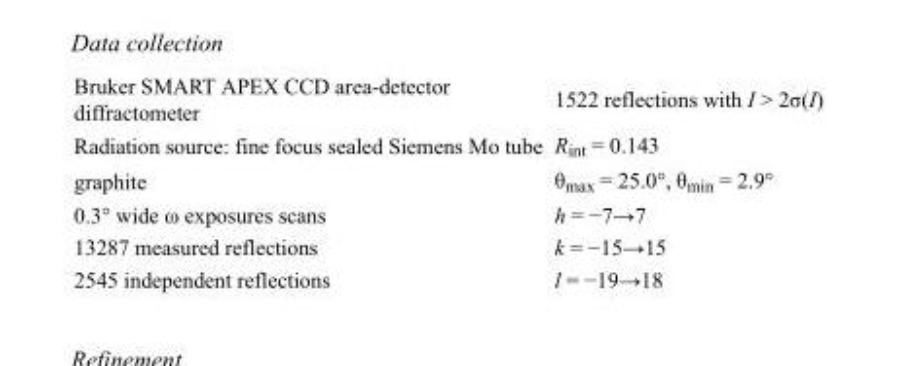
<table><tbody><tr><td>Bruker SMART APEX CCD area-detector diffractometer</td><td>1522 reflections with I &gt; 2σ(I)</td></tr><tr><td>Radiation source: fine focus sealed Siemens Mo tube</td><td>R<sub>int</sub> = 0.143</td></tr><tr><td>graphite</td><td>θ<sub>max</sub> = 25.0°, θ<sub>min</sub> = 2.9°</td></tr><tr><td>0.3° wide ω exposures scans</td><td>h = −7→7</td></tr><tr><td>13287 measured reflections</td><td>k = −15→15</td></tr><tr><td>2545 independent reflections</td><td>l = −19→18</td></tr></tbody></table>